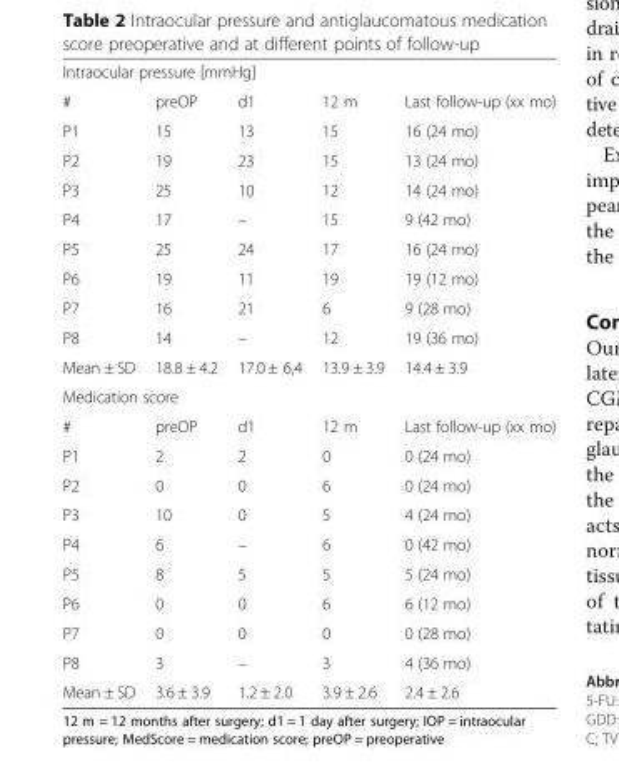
<table><tbody><tr><td colspan="5">Intraocular pressure [mmHg]</td></tr><tr><td>#</td><td>preOP</td><td>d1</td><td>12 m</td><td>Last follow-up (xx mo)</td></tr><tr><td>P1</td><td>15</td><td>13</td><td>15</td><td>16 (24 mo)</td></tr><tr><td>P2</td><td>19</td><td>23</td><td>15</td><td>13 (24 mo)</td></tr><tr><td>P3</td><td>25</td><td>10</td><td>12</td><td>14 (24 mo)</td></tr><tr><td>P4</td><td>17</td><td>–</td><td>15</td><td>9 (42 mo)</td></tr><tr><td>P5</td><td>25</td><td>24</td><td>17</td><td>16 (24 mo)</td></tr><tr><td>P6</td><td>19</td><td>11</td><td>19</td><td>19 (12 mo)</td></tr><tr><td>P7</td><td>16</td><td>21</td><td>6</td><td>9 (28 mo)</td></tr><tr><td>P8</td><td>14</td><td>–</td><td>12</td><td>19 (36 mo)</td></tr><tr><td>Mean ± SD</td><td>18.8 ± 4.2</td><td>17.0 ± 6,4</td><td>13.9 ± 3.9</td><td>14.4 ± 3.9</td></tr><tr><td colspan="5">Medication score</td></tr><tr><td>#</td><td>preOP</td><td>d1</td><td>12 m</td><td>Last follow-up (xx mo)</td></tr><tr><td>P1</td><td>2</td><td>2</td><td>0</td><td>0 (24 mo)</td></tr><tr><td>P2</td><td>0</td><td>0</td><td>6</td><td>0 (24 mo)</td></tr><tr><td>P3</td><td>10</td><td>0</td><td>5</td><td>4 (24 mo)</td></tr><tr><td>P4</td><td>6</td><td>–</td><td>6</td><td>0 (42 mo)</td></tr><tr><td>P5</td><td>8</td><td>5</td><td>5</td><td>5 (24 mo)</td></tr><tr><td>P6</td><td>0</td><td>0</td><td>6</td><td>6 (12 mo)</td></tr><tr><td>P7</td><td>0</td><td>0</td><td>0</td><td>0 (28 mo)</td></tr><tr><td>P8</td><td>3</td><td>–</td><td>3</td><td>4 (36 mo)</td></tr><tr><td>Mean ± SD</td><td>3.6 ± 3.9</td><td>1.2 ± 2.0</td><td>3.9 ± 2.6</td><td>2.4 ± 2.6</td></tr></tbody></table>